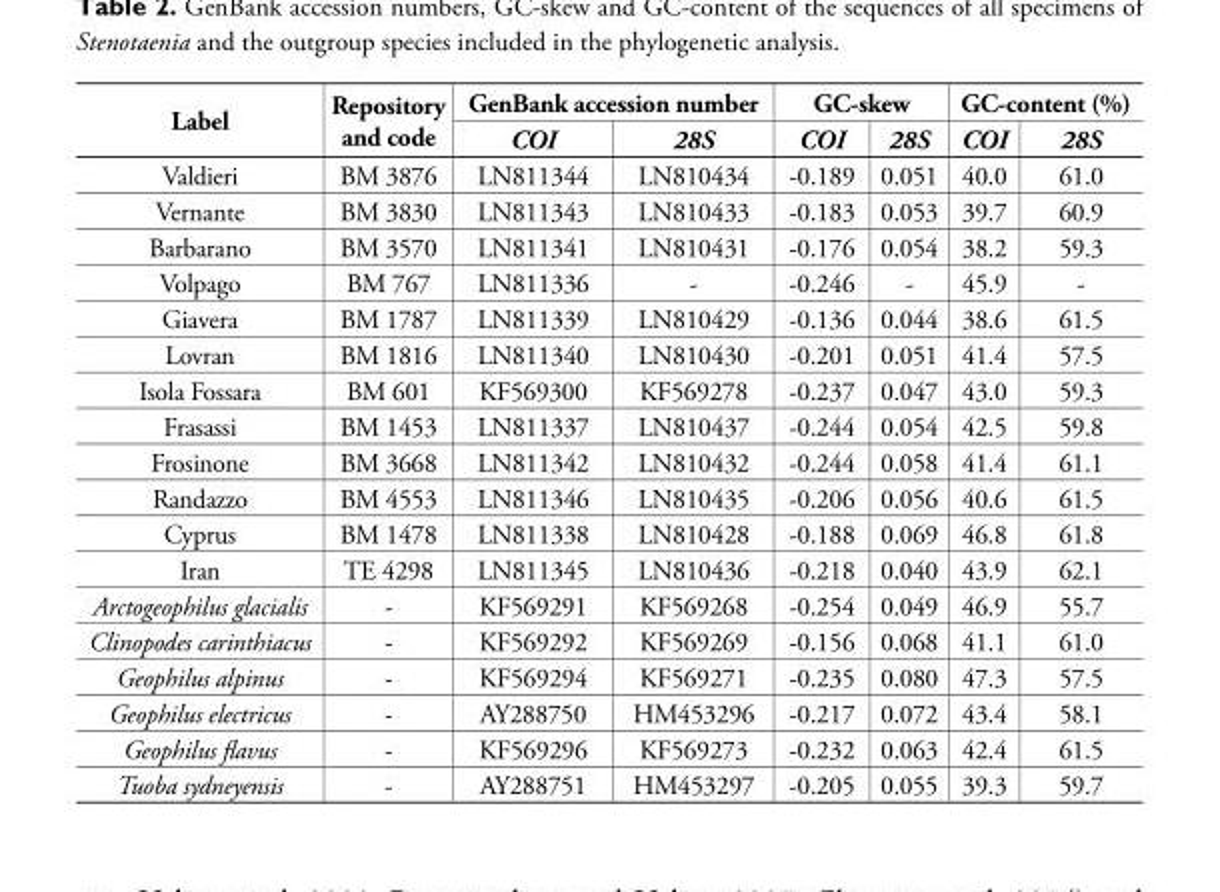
<table><thead><tr><td rowspan="2">Label</td><td rowspan="2">Repository and code</td><td colspan="2">GenBank accession number</td><td colspan="2">GC-skew</td><td colspan="2">GC-content (%)</td></tr><tr><td>COI</td><td>28S</td><td>COI</td><td>28S</td><td>COI</td><td>28S</td></tr></thead><tbody><tr><td>Valdieri</td><td>BM 3876</td><td>LN811344</td><td>LN810434</td><td>-0.189</td><td>0.051</td><td>40.0</td><td>61.0</td></tr><tr><td>Vernante</td><td>BM 3830</td><td>LN811343</td><td>LN810433</td><td>-0.183</td><td>0.053</td><td>39.7</td><td>60.9</td></tr><tr><td>Barbarano</td><td>BM 3570</td><td>LN811341</td><td>LN810431</td><td>-0.176</td><td>0.054</td><td>38.2</td><td>59.3</td></tr><tr><td>Volpago</td><td>BM 767</td><td>LN811336</td><td>-</td><td>-0.246</td><td>-</td><td>45.9</td><td>-</td></tr><tr><td>Giavera</td><td>BM 1787</td><td>LN811339</td><td>LN810429</td><td>-0.136</td><td>0.044</td><td>38.6</td><td>61.5</td></tr><tr><td>Lovran</td><td>BM 1816</td><td>LN811340</td><td>LN810430</td><td>-0.201</td><td>0.051</td><td>41.4</td><td>57.5</td></tr><tr><td>Isola Fossara</td><td>BM 601</td><td>KF569300</td><td>KF569278</td><td>-0.237</td><td>0.047</td><td>43.0</td><td>59.3</td></tr><tr><td>Frasassi</td><td>BM 1453</td><td>LN811337</td><td>LN810437</td><td>-0.244</td><td>0.054</td><td>42.5</td><td>59.8</td></tr><tr><td>Frosinone</td><td>BM 3668</td><td>LN811342</td><td>LN810432</td><td>-0.244</td><td>0.058</td><td>41.4</td><td>61.1</td></tr><tr><td>Randazzo</td><td>BM 4553</td><td>LN811346</td><td>LN810435</td><td>-0.206</td><td>0.056</td><td>40.6</td><td>61.5</td></tr><tr><td>Cyprus</td><td>BM 1478</td><td>LN811338</td><td>LN810428</td><td>-0.188</td><td>0.069</td><td>46.8</td><td>61.8</td></tr><tr><td>Iran</td><td>TE 4298</td><td>LN811345</td><td>LN810436</td><td>-0.218</td><td>0.040</td><td>43.9</td><td>62.1</td></tr><tr><td>Arctogeophilus glacialis</td><td>-</td><td>KF569291</td><td>KF569268</td><td>-0.254</td><td>0.049</td><td>46.9</td><td>55.7</td></tr><tr><td>Clinopodes carinthiacus</td><td>-</td><td>KF569292</td><td>KF569269</td><td>-0.156</td><td>0.068</td><td>41.1</td><td>61.0</td></tr><tr><td>Geophilus alpinus</td><td>-</td><td>KF569294</td><td>KF569271</td><td>-0.235</td><td>0.080</td><td>47.3</td><td>57.5</td></tr><tr><td>Geophilus electricus</td><td>-</td><td>AY288750</td><td>HM453296</td><td>-0.217</td><td>0.072</td><td>43.4</td><td>58.1</td></tr><tr><td>Geophilus flavus</td><td>-</td><td>KF569296</td><td>KF569273</td><td>-0.232</td><td>0.063</td><td>42.4</td><td>61.5</td></tr><tr><td>Tuoba sydneyensis</td><td>-</td><td>AY288751</td><td>HM453297</td><td>-0.205</td><td>0.055</td><td>39.3</td><td>59.7</td></tr></tbody></table>